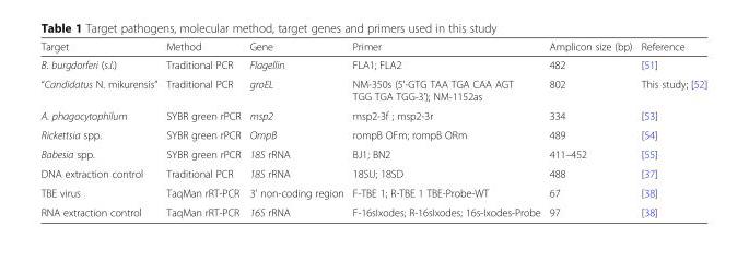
<table><thead><tr><td>Target</td><td>Method</td><td>Gene</td><td>Primer</td><td>Amplicon size (bp)</td><td>Reference</td></tr></thead><tbody><tr><td>B. burgdorferi (s.l.)</td><td>Traditional PCR</td><td>Flagellin</td><td>FLA1; FLA2</td><td>482</td><td>[51]</td></tr><tr><td>“Candidatus N. mikurensis”</td><td>Traditional PCR</td><td>groEL</td><td>NM-350s (5&#x27;-GTG TAA TGA CAA AGT TGG TGA TGG-3&#x27;); NM-1152as</td><td>802</td><td>This study; [52]</td></tr><tr><td>A. phagocytophilum</td><td>SYBR green rPCR</td><td>msp2</td><td>msp2-3f ; msp2-3r</td><td>334</td><td>[53]</td></tr><tr><td>Rickettsia spp.</td><td>SYBR green rPCR</td><td>OmpB</td><td>rompB OFm; rompB ORm</td><td>489</td><td>[54]</td></tr><tr><td>Babesia spp.</td><td>SYBR green rPCR</td><td>18S rRNA</td><td>BJ1; BN2</td><td>411–452</td><td>[55]</td></tr><tr><td>DNA extraction control</td><td>Traditional PCR</td><td>18S rRNA</td><td>18SU; 18SD</td><td>488</td><td>[37]</td></tr><tr><td>TBE virus</td><td>TaqMan rRT-PCR</td><td>3&#x27; non-coding region</td><td>F-TBE 1; R-TBE 1 TBE-Probe-WT</td><td>67</td><td>[38]</td></tr><tr><td>RNA extraction control</td><td>TaqMan rRT-PCR</td><td>16S rRNA</td><td>F-16sIxodes; R-16sIxodes; 16s-Ixodes-Probe</td><td>97</td><td>[38]</td></tr></tbody></table>